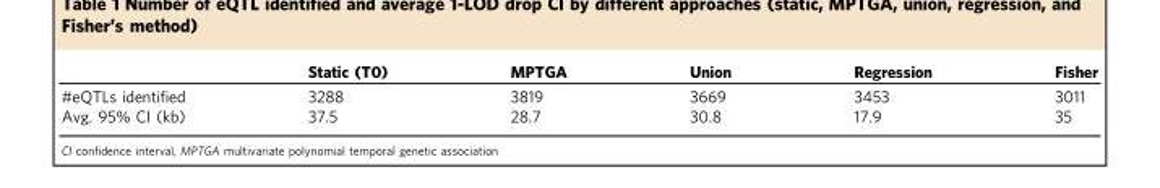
<table><thead><tr><td></td><td>Static (T0)</td><td>MPTGA</td><td>Union</td><td>Regression</td><td>Fisher</td></tr></thead><tbody><tr><td>#eQTLs identified</td><td>3288</td><td>3819</td><td>3669</td><td>3453</td><td>3011</td></tr><tr><td>Avg. 95% CI (kb)</td><td>37.5</td><td>28.7</td><td>30.8</td><td>17.9</td><td>35</td></tr></tbody></table>